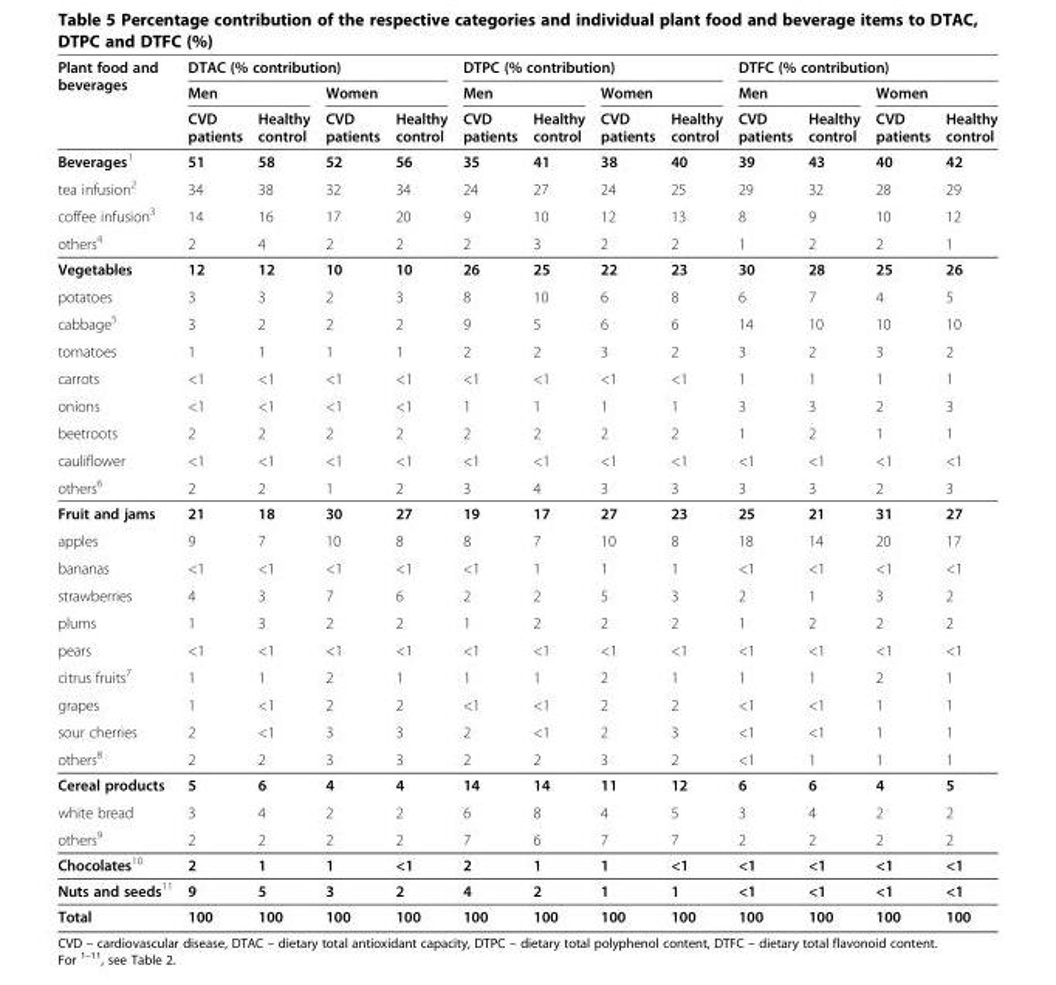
<table><thead><tr><td rowspan="3">Plant food and beverages</td><td colspan="4">DTAC (% contribution)</td><td colspan="4">DTPC (% contribution)</td><td colspan="4">DTFC (% contribution)</td></tr><tr><td colspan="2">Men</td><td colspan="2">Women</td><td colspan="2">Men</td><td colspan="2">Women</td><td colspan="2">Men</td><td colspan="2">Women</td></tr><tr><td>CVD patients</td><td>Healthy control</td><td>CVD patients</td><td>Healthy control</td><td>CVD patients</td><td>Healthy control</td><td>CVD patients</td><td>Healthy control</td><td>CVD patients</td><td>Healthy control</td><td>CVD patients</td><td>Healthy control</td></tr></thead><tbody><tr><td>Beverages<sup>1</sup></td><td>51</td><td>58</td><td>52</td><td>56</td><td>35</td><td>41</td><td>38</td><td>40</td><td>39</td><td>43</td><td>40</td><td>42</td></tr><tr><td>tea infusion<sup>2</sup></td><td>34</td><td>38</td><td>32</td><td>34</td><td>24</td><td>27</td><td>24</td><td>25</td><td>29</td><td>32</td><td>28</td><td>29</td></tr><tr><td>coffee infusion<sup>3</sup></td><td>14</td><td>16</td><td>17</td><td>20</td><td>9</td><td>10</td><td>12</td><td>13</td><td>8</td><td>9</td><td>10</td><td>12</td></tr><tr><td>others<sup>4</sup></td><td>2</td><td>4</td><td>2</td><td>2</td><td>2</td><td>3</td><td>2</td><td>2</td><td>1</td><td>2</td><td>2</td><td>1</td></tr><tr><td>Vegetables</td><td>12</td><td>12</td><td>10</td><td>10</td><td>26</td><td>25</td><td>22</td><td>23</td><td>30</td><td>28</td><td>25</td><td>26</td></tr><tr><td>potatoes</td><td>3</td><td>3</td><td>2</td><td>3</td><td>8</td><td>10</td><td>6</td><td>8</td><td>6</td><td>7</td><td>4</td><td>5</td></tr><tr><td>cabbage<sup>5</sup></td><td>3</td><td>2</td><td>2</td><td>2</td><td>9</td><td>5</td><td>6</td><td>6</td><td>14</td><td>10</td><td>10</td><td>10</td></tr><tr><td>tomatoes</td><td>1</td><td>1</td><td>1</td><td>1</td><td>2</td><td>2</td><td>3</td><td>2</td><td>3</td><td>2</td><td>3</td><td>2</td></tr><tr><td>carrots</td><td>&lt;1</td><td>&lt;1</td><td>&lt;1</td><td>&lt;1</td><td>&lt;1</td><td>&lt;1</td><td>&lt;1</td><td>&lt;1</td><td>1</td><td>1</td><td>1</td><td>1</td></tr><tr><td>onions</td><td>&lt;1</td><td>&lt;1</td><td>&lt;1</td><td>&lt;1</td><td>1</td><td>1</td><td>1</td><td>1</td><td>3</td><td>3</td><td>2</td><td>3</td></tr><tr><td>beetroots</td><td>2</td><td>2</td><td>2</td><td>2</td><td>2</td><td>2</td><td>2</td><td>2</td><td>1</td><td>2</td><td>1</td><td>1</td></tr><tr><td>cauliflower</td><td>&lt;1</td><td>&lt;1</td><td>&lt;1</td><td>&lt;1</td><td>&lt;1</td><td>&lt;1</td><td>&lt;1</td><td>&lt;1</td><td>&lt;1</td><td>&lt;1</td><td>&lt;1</td><td>&lt;1</td></tr><tr><td>others<sup>6</sup></td><td>2</td><td>2</td><td>1</td><td>2</td><td>3</td><td>4</td><td>3</td><td>3</td><td>3</td><td>3</td><td>2</td><td>3</td></tr><tr><td>Fruit and jams</td><td>21</td><td>18</td><td>30</td><td>27</td><td>19</td><td>17</td><td>27</td><td>23</td><td>25</td><td>21</td><td>31</td><td>27</td></tr><tr><td>apples</td><td>9</td><td>7</td><td>10</td><td>8</td><td>8</td><td>7</td><td>10</td><td>8</td><td>18</td><td>14</td><td>20</td><td>17</td></tr><tr><td>bananas</td><td>&lt;1</td><td>&lt;1</td><td>&lt;1</td><td>&lt;1</td><td>&lt;1</td><td>1</td><td>1</td><td>1</td><td>&lt;1</td><td>&lt;1</td><td>&lt;1</td><td>&lt;1</td></tr><tr><td>strawberries</td><td>4</td><td>3</td><td>7</td><td>6</td><td>2</td><td>2</td><td>5</td><td>3</td><td>2</td><td>1</td><td>3</td><td>2</td></tr><tr><td>plums</td><td>1</td><td>3</td><td>2</td><td>2</td><td>1</td><td>2</td><td>2</td><td>2</td><td>1</td><td>2</td><td>2</td><td>2</td></tr><tr><td>pears</td><td>&lt;1</td><td>&lt;1</td><td>&lt;1</td><td>&lt;1</td><td>&lt;1</td><td>&lt;1</td><td>&lt;1</td><td>&lt;1</td><td>&lt;1</td><td>&lt;1</td><td>&lt;1</td><td>&lt;1</td></tr><tr><td>citrus fruits<sup>7</sup></td><td>1</td><td>1</td><td>2</td><td>1</td><td>1</td><td>1</td><td>2</td><td>1</td><td>1</td><td>1</td><td>2</td><td>1</td></tr><tr><td>grapes</td><td>1</td><td>&lt;1</td><td>2</td><td>2</td><td>&lt;1</td><td>&lt;1</td><td>2</td><td>2</td><td>&lt;1</td><td>&lt;1</td><td>1</td><td>1</td></tr><tr><td>sour cherries</td><td>2</td><td>&lt;1</td><td>3</td><td>3</td><td>2</td><td>&lt;1</td><td>2</td><td>3</td><td>&lt;1</td><td>&lt;1</td><td>1</td><td>1</td></tr><tr><td>others<sup>8</sup></td><td>2</td><td>2</td><td>3</td><td>3</td><td>2</td><td>2</td><td>3</td><td>2</td><td>&lt;1</td><td>1</td><td>1</td><td>1</td></tr><tr><td>Cereal products</td><td>5</td><td>6</td><td>4</td><td>4</td><td>14</td><td>14</td><td>11</td><td>12</td><td>6</td><td>6</td><td>4</td><td>5</td></tr><tr><td>white bread</td><td>3</td><td>4</td><td>2</td><td>2</td><td>6</td><td>8</td><td>4</td><td>5</td><td>3</td><td>4</td><td>2</td><td>2</td></tr><tr><td>others<sup>9</sup></td><td>2</td><td>2</td><td>2</td><td>2</td><td>7</td><td>6</td><td>7</td><td>7</td><td>2</td><td>2</td><td>2</td><td>2</td></tr><tr><td>Chocolates<sup>10</sup></td><td>2</td><td>1</td><td>1</td><td>&lt;1</td><td>2</td><td>1</td><td>1</td><td>&lt;1</td><td>&lt;1</td><td>&lt;1</td><td>&lt;1</td><td>&lt;1</td></tr><tr><td>Nuts and seeds<sup>11</sup></td><td>9</td><td>5</td><td>3</td><td>2</td><td>4</td><td>2</td><td>1</td><td>1</td><td>&lt;1</td><td>&lt;1</td><td>&lt;1</td><td>&lt;1</td></tr><tr><td>Total</td><td>100</td><td>100</td><td>100</td><td>100</td><td>100</td><td>100</td><td>100</td><td>100</td><td>100</td><td>100</td><td>100</td><td>100</td></tr></tbody></table>